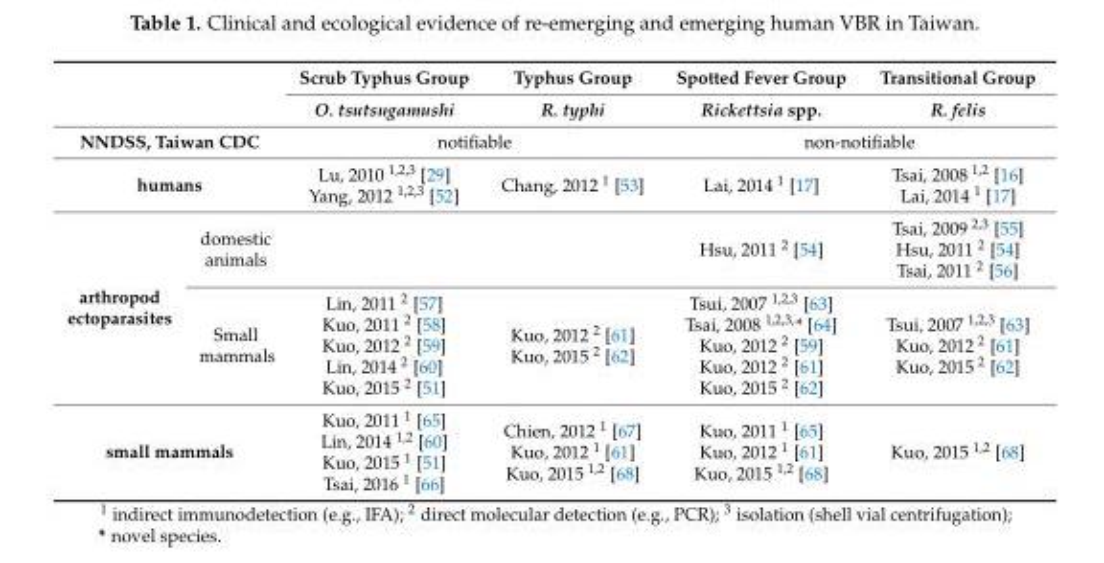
<table><thead><tr><td rowspan="2"></td><td rowspan="2"></td><td rowspan="2">Scrub Typhus Group O. tsutsugamushi</td><td rowspan="2">Typhus Group R. typhi</td><td rowspan="2">Spotted Fever Group Rickettsia spp.</td><td rowspan="2">Transitional Group R. felis</td></tr><tr></tr></thead><tbody><tr><td colspan="2">NNDSS, Taiwan CDC</td><td colspan="2">notifiable</td><td colspan="2">non-notifiable</td></tr><tr><td colspan="2">humans</td><td>Lu, 2010 <sup>1,2,3</sup> [29] Yang, 2012 <sup>1,2,3</sup> [52]</td><td>Chang, 2012 <sup>1</sup> [53]</td><td>Lai, 2014 <sup>1</sup> [17]</td><td>Tsai, 2008 <sup>1,2</sup> [16] Lai, 2014 <sup>1</sup> [17]</td></tr><tr><td rowspan="2">arthropod ectoparasites</td><td>domestic animals</td><td></td><td></td><td>Hsu, 2011 <sup>2</sup> [54]</td><td>Tsai, 2009 <sup>2,3</sup> [55] Hsu, 2011 <sup>2</sup> [54] Tsai, 2011 <sup>2</sup> [56]</td></tr><tr><td>Small mammals</td><td>Lin, 2011 <sup>2</sup> [57] Kuo, 2011 <sup>2</sup> [58] Kuo, 2012 <sup>2</sup> [59] Lin, 2014 <sup>2</sup> [60] Kuo, 2015 <sup>2</sup> [51]</td><td>Kuo, 2012 <sup>2</sup> [61] Kuo, 2015 <sup>2</sup> [62]</td><td>Tsui, 2007 <sup>1,2,3</sup> [63] Tsai, 2008 <sup>1,2,3,</sup>* [64] Kuo, 2012 <sup>2</sup> [59] Kuo, 2012 <sup>2</sup> [61] Kuo, 2015 <sup>2</sup> [62]</td><td>Tsui, 2007 <sup>1,2,3</sup> [63] Kuo, 2012 <sup>2</sup> [61] Kuo, 2015 <sup>2</sup> [62]</td></tr><tr><td colspan="2">small mammals</td><td>Kuo, 2011 <sup>1</sup> [65] Lin, 2014 <sup>1,2</sup> [60] Kuo, 2015 <sup>1</sup> [51] Tsai, 2016 <sup>1</sup> [66]</td><td>Chien, 2012 <sup>1</sup> [67] Kuo, 2012 <sup>1</sup> [61] Kuo, 2015 <sup>1,2</sup> [68]</td><td>Kuo, 2011 <sup>1</sup> [65] Kuo, 2012 <sup>1</sup> [61] Kuo, 2015 <sup>1,2</sup> [68]</td><td>Kuo, 2015 <sup>1,2</sup> [68]</td></tr></tbody></table>